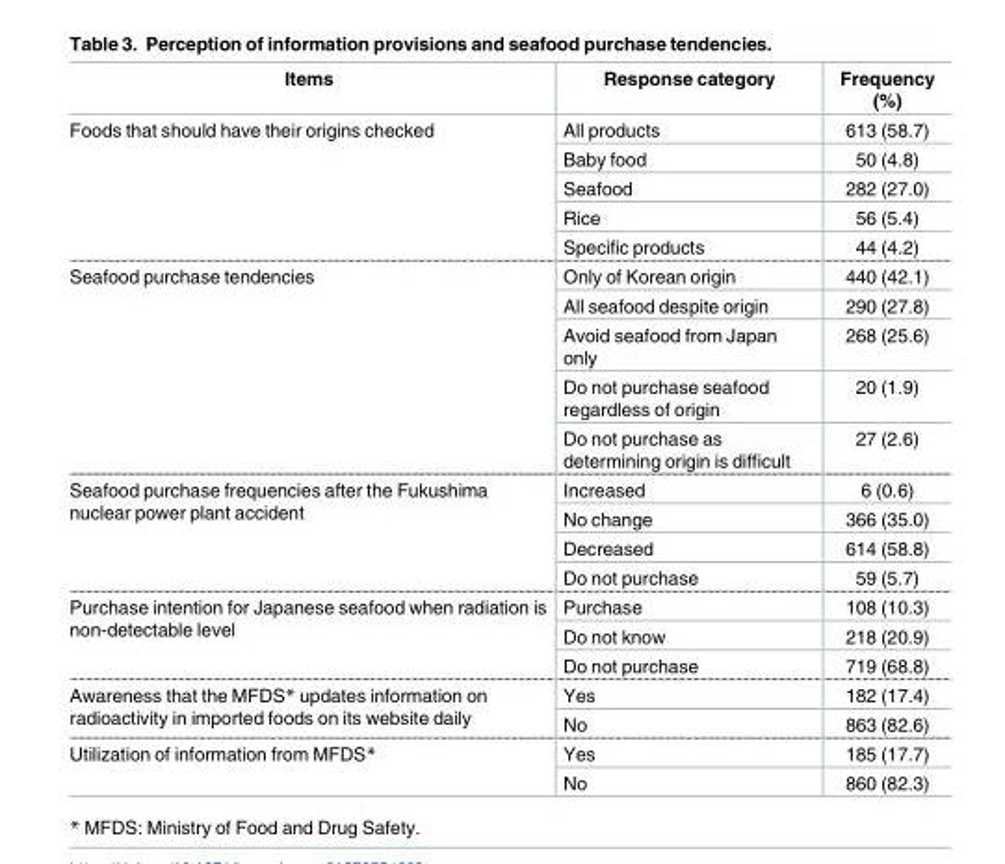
<table><thead><tr><td>Items</td><td>Response category</td><td>Frequency (%)</td></tr></thead><tbody><tr><td rowspan="5">Foods that should have their origins checked</td><td>All products</td><td>613 (58.7)</td></tr><tr><td>Baby food</td><td>50 (4.8)</td></tr><tr><td>Seafood</td><td>282 (27.0)</td></tr><tr><td>Rice</td><td>56 (5.4)</td></tr><tr><td>Specific products</td><td>44 (4.2)</td></tr><tr><td rowspan="5">Seafood purchase tendencies</td><td>Only of Korean origin</td><td>440 (42.1)</td></tr><tr><td>All seafood despite origin</td><td>290 (27.8)</td></tr><tr><td>Avoid seafood from Japan only</td><td>268 (25.6)</td></tr><tr><td>Do not purchase seafood regardless of origin</td><td>20 (1.9)</td></tr><tr><td>Do not purchase as determining origin is difficult</td><td>27 (2.6)</td></tr><tr><td rowspan="4">Seafood purchase frequencies after the Fukushima nuclear power plant accident</td><td>Increased</td><td>6 (0.6)</td></tr><tr><td>No change</td><td>366 (35.0)</td></tr><tr><td>Decreased</td><td>614 (58.8)</td></tr><tr><td>Do not purchase</td><td>59 (5.7)</td></tr><tr><td rowspan="3">Purchase intention for Japanese seafood when radiation is non-detectable level</td><td>Purchase</td><td>108 (10.3)</td></tr><tr><td>Do not know</td><td>218 (20.9)</td></tr><tr><td>Do not purchase</td><td>719 (68.8)</td></tr><tr><td rowspan="2">Awareness that the MFDS* updates information on radioactivity in imported foods on its website daily</td><td>Yes</td><td>182 (17.4)</td></tr><tr><td>No</td><td>863 (82.6)</td></tr><tr><td rowspan="2">Utilization of information from MFDS*</td><td>Yes</td><td>185 (17.7)</td></tr><tr><td>No</td><td>860 (82.3)</td></tr></tbody></table>